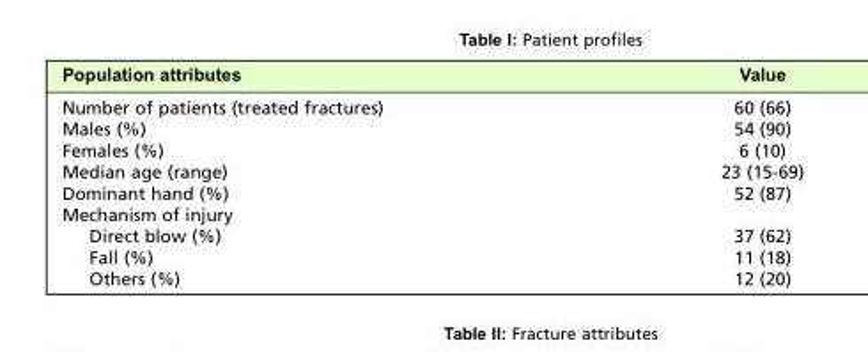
<table><thead><tr><td>Population attributes</td><td>Value</td></tr></thead><tbody><tr><td>Number of patients (treated fractures)</td><td>60 (66)</td></tr><tr><td>Males (%)</td><td>54 (90)</td></tr><tr><td>Females (%)</td><td>6 (10)</td></tr><tr><td>Median age (range)</td><td>23 (15-69)</td></tr><tr><td>Dominant hand (%)</td><td>52 (87)</td></tr><tr><td colspan="2">Mechanism of injury</td></tr><tr><td>Direct blow (%)</td><td>37 (62)</td></tr><tr><td>Fall (%)</td><td>11 (18)</td></tr><tr><td>Others (%)</td><td>12 (20)</td></tr></tbody></table>